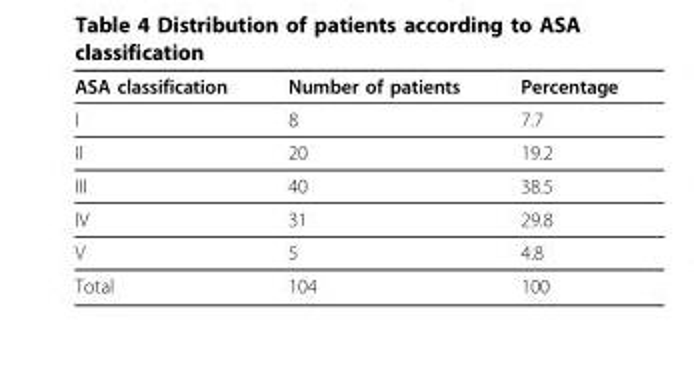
<table><thead><tr><td>ASA classification</td><td>Number of patients</td><td>Percentage</td></tr></thead><tbody><tr><td>I</td><td>8</td><td>7.7</td></tr><tr><td>II</td><td>20</td><td>19.2</td></tr><tr><td>III</td><td>40</td><td>38.5</td></tr><tr><td>IV</td><td>31</td><td>29.8</td></tr><tr><td>V</td><td>5</td><td>4.8</td></tr><tr><td>Total</td><td>104</td><td>100</td></tr></tbody></table>